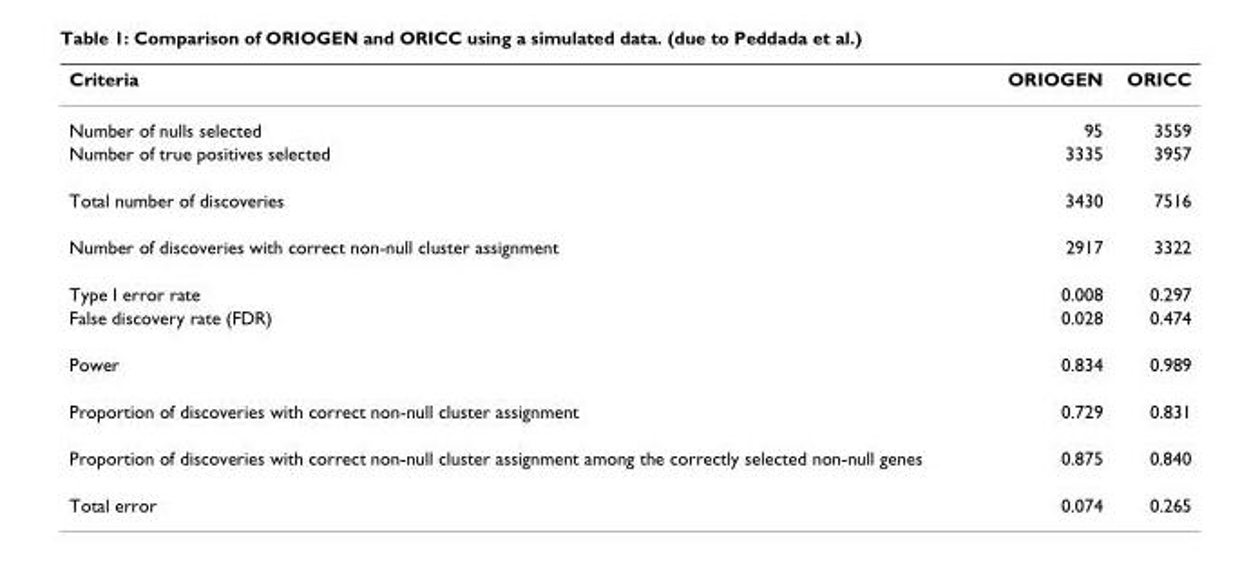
<table><thead><tr><td>Criteria</td><td>ORIOGEN</td><td>ORICC</td></tr></thead><tbody><tr><td>Number of nulls selected</td><td>95</td><td>3559</td></tr><tr><td>Number of true positives selected</td><td>3335</td><td>3957</td></tr><tr><td>Total number of discoveries</td><td>3430</td><td>7516</td></tr><tr><td>Number of discoveries with correct non-null cluster assignment</td><td>2917</td><td>3322</td></tr><tr><td>Type I error rate</td><td>0.008</td><td>0.297</td></tr><tr><td>False discovery rate (FDR)</td><td>0.028</td><td>0.474</td></tr><tr><td>Power</td><td>0.834</td><td>0.989</td></tr><tr><td>Proportion of discoveries with correct non-null cluster assignment</td><td>0.729</td><td>0.831</td></tr><tr><td>Proportion of discoveries with correct non-null cluster assignment among the correctly selected non-null genes</td><td>0.875</td><td>0.840</td></tr><tr><td>Total error</td><td>0.074</td><td>0.265</td></tr></tbody></table>